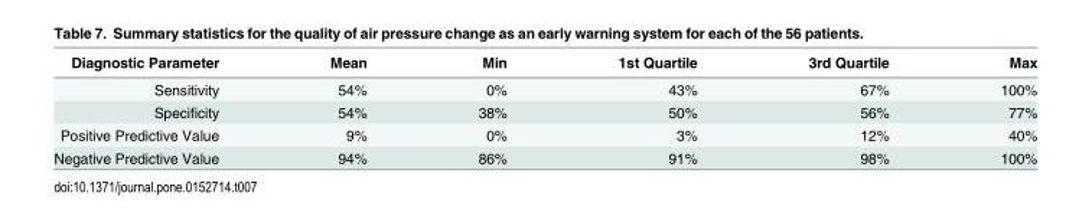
<table><thead><tr><td>Diagnostic Parameter</td><td>Mean</td><td>Min</td><td>1st Quartile</td><td>3rd Quartile</td><td>Max</td></tr></thead><tbody><tr><td>Sensitivity</td><td>54%</td><td>0%</td><td>43%</td><td>67%</td><td>100%</td></tr><tr><td>Specificity</td><td>54%</td><td>38%</td><td>50%</td><td>56%</td><td>77%</td></tr><tr><td>Positive Predictive Value</td><td>9%</td><td>0%</td><td>3%</td><td>12%</td><td>40%</td></tr><tr><td>Negative Predictive Value</td><td>94%</td><td>86%</td><td>91%</td><td>98%</td><td>100%</td></tr></tbody></table>